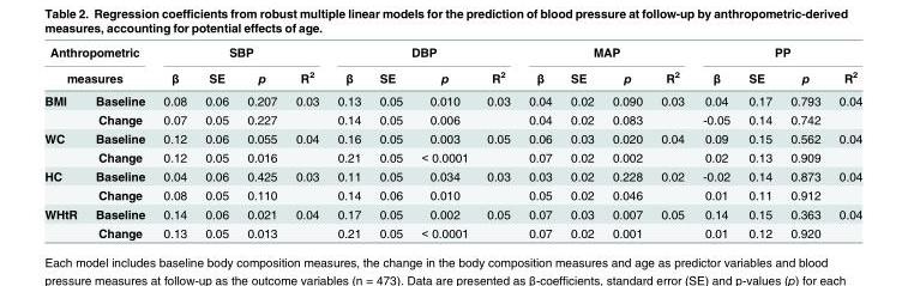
<table><thead><tr><td rowspan="2" colspan="2">Anthropometric measures</td><td colspan="4">SBP</td><td colspan="4">DBP</td><td colspan="4">MAP</td><td colspan="4">PP</td></tr><tr><td rowspan="2">β 0.08</td><td rowspan="2">SE 0.06</td><td rowspan="2">p 0.207</td><td rowspan="2">R<sup>2</sup> 0.03</td><td rowspan="2">β 0.13</td><td rowspan="2">SE 0.05</td><td rowspan="2">p 0.010</td><td rowspan="2">R<sup>2</sup> 0.03</td><td rowspan="2">β 0.04</td><td rowspan="2">SE 0.02</td><td rowspan="2">p 0.090</td><td rowspan="2">R<sup>2</sup> 0.03</td><td rowspan="2">β 0.04</td><td rowspan="2">SE 0.17</td><td rowspan="2">p 0.793</td><td rowspan="2">R<sup>2</sup> 0.04</td></tr><tr><td>BMI</td><td>Baseline</td></tr></thead><tbody><tr><td></td><td>Change</td><td>0.07</td><td>0.05</td><td>0.227</td><td></td><td>0.14</td><td>0.05</td><td>0.006</td><td></td><td>0.04</td><td>0.02</td><td>0.083</td><td></td><td>-0.05</td><td>0.14</td><td>0.742</td><td></td></tr><tr><td rowspan="2">WC</td><td>Baseline</td><td>0.12</td><td>0.06</td><td>0.055</td><td>0.04</td><td>0.16</td><td>0.05</td><td>0.003</td><td>0.05</td><td>0.06</td><td>0.03</td><td>0.020</td><td>0.04</td><td>0.09</td><td>0.15</td><td>0.562</td><td>0.04</td></tr><tr><td>Change</td><td>0.12</td><td>0.05</td><td>0.016</td><td></td><td>0.21</td><td>0.05</td><td>&lt; 0.0001</td><td></td><td>0.07</td><td>0.02</td><td>0.002</td><td></td><td>0.02</td><td>0.13</td><td>0.909</td><td></td></tr><tr><td rowspan="2">HC</td><td>Baseline</td><td>0.04</td><td>0.06</td><td>0.425</td><td>0.03</td><td>0.11</td><td>0.05</td><td>0.034</td><td>0.03</td><td>0.03</td><td>0.02</td><td>0.228</td><td>0.02</td><td>-0.02</td><td>0.14</td><td>0.873</td><td>0.04</td></tr><tr><td>Change</td><td>0.08</td><td>0.05</td><td>0.110</td><td></td><td>0.14</td><td>0.06</td><td>0.010</td><td></td><td>0.05</td><td>0.02</td><td>0.046</td><td></td><td>0.01</td><td>0.11</td><td>0.912</td><td></td></tr><tr><td rowspan="2">WHtR</td><td>Baseline</td><td>0.14</td><td>0.06</td><td>0.021</td><td>0.04</td><td>0.17</td><td>0.05</td><td>0.002</td><td>0.05</td><td>0.07</td><td>0.03</td><td>0.007</td><td>0.05</td><td>0.14</td><td>0.15</td><td>0.363</td><td>0.04</td></tr><tr><td>Change</td><td>0.13</td><td>0.05</td><td>0.013</td><td></td><td>0.21</td><td>0.05</td><td>&lt; 0.0001</td><td></td><td>0.07</td><td>0.02</td><td>0.001</td><td></td><td>0.01</td><td>0.12</td><td>0.920</td><td></td></tr></tbody></table>